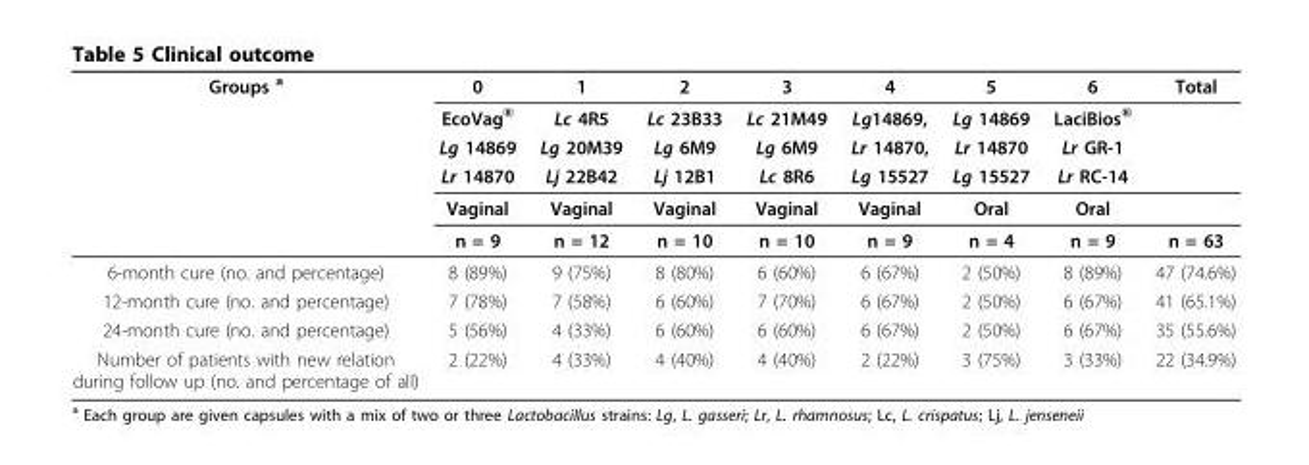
<table><thead><tr><td rowspan="6">Groups <sup>a</sup></td><td rowspan="6">0 EcoVag® Lg 14869 Lr 14870 Vaginal n = 9</td><td rowspan="6">1 Lc 4R5 Lg 20M39 Lj 22B42 Vaginal n = 12</td><td rowspan="6">2 Lc 23B33 Lg 6M9 Lj 12B1 Vaginal n = 10</td><td rowspan="6">3 Lc 21M49 Lg 6M9 Lc 8R6 Vaginal n = 10</td><td rowspan="6">4 Lg14869, Lr 14870, Lg 15527 Vaginal n = 9</td><td rowspan="6">5 Lg 14869 Lr 14870 Lg 15527 Oral n = 4</td><td rowspan="6">6 LaciBios® Lr GR-1 Lr RC-14 Oral n = 9</td><td rowspan="6">Total n = 63</td></tr><tr></tr><tr></tr><tr></tr><tr></tr><tr></tr></thead><tbody><tr><td>6-month cure (no. and percentage)</td><td>8 (89%)</td><td>9 (75%)</td><td>8 (80%)</td><td>6 (60%)</td><td>6 (67%)</td><td>2 (50%)</td><td>8 (89%)</td><td>47 (74.6%)</td></tr><tr><td>12-month cure (no. and percentage)</td><td>7 (78%)</td><td>7 (58%)</td><td>6 (60%)</td><td>7 (70%)</td><td>6 (67%)</td><td>2 (50%)</td><td>6 (67%)</td><td>41 (65.1%)</td></tr><tr><td>24-month cure (no. and percentage)</td><td>5 (56%)</td><td>4 (33%)</td><td>6 (60%)</td><td>6 (60%)</td><td>6 (67%)</td><td>2 (50%)</td><td>6 (67%)</td><td>35 (55.6%)</td></tr><tr><td>Number of patients with new relation during follow up (no. and percentage of all)</td><td>2 (22%)</td><td>4 (33%)</td><td>4 (40%)</td><td>4 (40%)</td><td>2 (22%)</td><td>3 (75%)</td><td>3 (33%)</td><td>22 (34.9%)</td></tr></tbody></table>